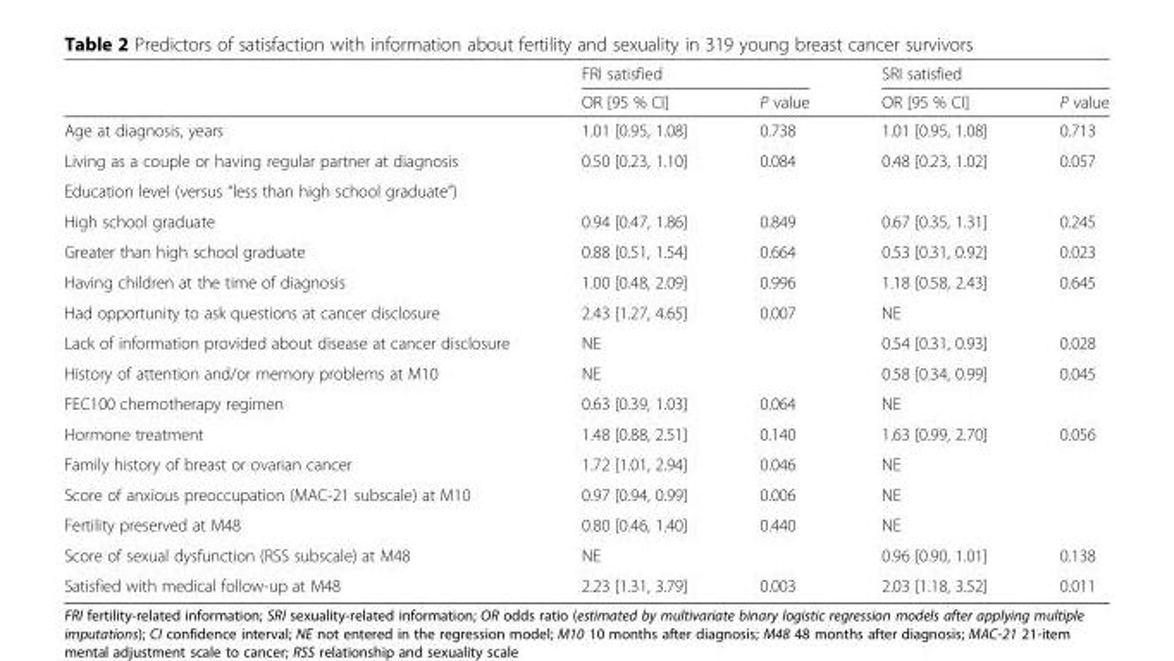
<table><thead><tr><td rowspan="2"></td><td colspan="2">FRI satisfied</td><td colspan="2">SRI satisfied</td></tr><tr><td>OR [95 % CI]</td><td>P value</td><td>OR [95 % CI]</td><td>P value</td></tr></thead><tbody><tr><td>Age at diagnosis, years</td><td>1.01 [0.95, 1.08]</td><td>0.738</td><td>1.01 [0.95, 1.08]</td><td>0.713</td></tr><tr><td>Living as a couple or having regular partner at diagnosis</td><td>0.50 [0.23, 1.10]</td><td>0.084</td><td>0.48 [0.23, 1.02]</td><td>0.057</td></tr><tr><td colspan="5">Education level (versus “less than high school graduate”)</td></tr><tr><td>High school graduate</td><td>0.94 [0.47, 1.86]</td><td>0.849</td><td>0.67 [0.35, 1.31]</td><td>0.245</td></tr><tr><td>Greater than high school graduate</td><td>0.88 [0.51, 1.54]</td><td>0.664</td><td>0.53 [0.31, 0.92]</td><td>0.023</td></tr><tr><td>Having children at the time of diagnosis</td><td>1.00 [0.48, 2.09]</td><td>0.996</td><td>1.18 [0.58, 2.43]</td><td>0.645</td></tr><tr><td>Had opportunity to ask questions at cancer disclosure</td><td>2.43 [1.27, 4.65]</td><td>0.007</td><td>NE</td><td></td></tr><tr><td>Lack of information provided about disease at cancer disclosure</td><td>NE</td><td></td><td>0.54 [0.31, 0.93]</td><td>0.028</td></tr><tr><td>History of attention and/or memory problems at M10</td><td>NE</td><td></td><td>0.58 [0.34, 0.99]</td><td>0.045</td></tr><tr><td>FEC100 chemotherapy regimen</td><td>0.63 [0.39, 1.03]</td><td>0.064</td><td>NE</td><td></td></tr><tr><td>Hormone treatment</td><td>1.48 [0.88, 2.51]</td><td>0.140</td><td>1.63 [0.99, 2.70]</td><td>0.056</td></tr><tr><td>Family history of breast or ovarian cancer</td><td>1.72 [1.01, 2.94]</td><td>0.046</td><td>NE</td><td></td></tr><tr><td>Score of anxious preoccupation (MAC-21 subscale) at M10</td><td>0.97 [0.94, 0.99]</td><td>0.006</td><td>NE</td><td></td></tr><tr><td>Fertility preserved at M48</td><td>0.80 [0.46, 1.40]</td><td>0.440</td><td>NE</td><td></td></tr><tr><td>Score of sexual dysfunction (RSS subscale) at M48</td><td>NE</td><td></td><td>0.96 [0.90, 1.01]</td><td>0.138</td></tr><tr><td>Satisfied with medical follow-up at M48</td><td>2.23 [1.31, 3.79]</td><td>0.003</td><td>2.03 [1.18, 3.52]</td><td>0.011</td></tr></tbody></table>